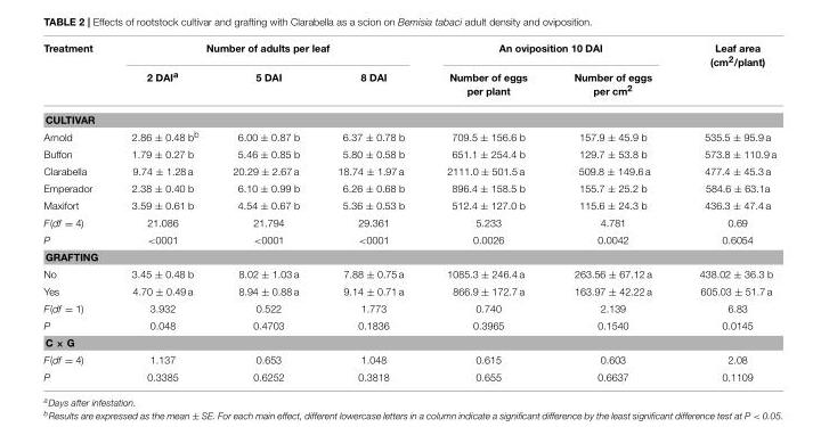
<table><thead><tr><td rowspan="2">Treatment</td><td colspan="3">Number of adults per leaf</td><td colspan="2">An oviposition 10 DAI</td><td rowspan="2">Leaf area (cm<sup>2</sup>/plant)</td></tr><tr><td>2 DAI<sup>a</sup></td><td>5 DAI</td><td>8 DAI</td><td>Number of eggs per plant</td><td>Number of eggs per cm<sup>2</sup></td></tr></thead><tbody><tr><td colspan="7">CULTIVAR</td></tr><tr><td>Arnold</td><td>2.86 ± 0.48 b<sup>b</sup></td><td>6.00 ± 0.87 b</td><td>6.37 ± 0.78 b</td><td>709.5 ± 156.6 b</td><td>157.9 ± 45.9 b</td><td>535.5 ± 95.9 a</td></tr><tr><td>Buffon</td><td>1.79 ± 0.27 b</td><td>5.46 ± 0.85 b</td><td>5.80 ± 0.58 b</td><td>651.1 ± 254.4 b</td><td>129.7 ± 53.8 b</td><td>573.8 ± 110.9 a</td></tr><tr><td>Clarabella</td><td>9.74 ± 1.28 a</td><td>20.29 ± 2.67 a</td><td>18.74 ± 1.97 a</td><td>2111.0 ± 501.5 a</td><td>509.8 ± 149.6 a</td><td>477.4 ± 45.3 a</td></tr><tr><td>Emperador</td><td>2.38 ± 0.40 b</td><td>6.10 ± 0.99 b</td><td>6.26 ± 0.68 b</td><td>896.4 ± 158.5 b</td><td>155.7 ± 25.2 b</td><td>584.6 ± 63.1a</td></tr><tr><td>Maxifort</td><td>3.59 ± 0.61 b</td><td>4.54 ± 0.67 b</td><td>5.36 ± 0.53 b</td><td>512.4 ± 127.0 b</td><td>115.6 ± 24.3 b</td><td>436.3 ± 47.4 a</td></tr><tr><td>F(df = 4)</td><td>21.086</td><td>21.794</td><td>29.361</td><td>5.233</td><td>4.781</td><td>0.69</td></tr><tr><td>P</td><td>&lt;0001</td><td>&lt;0001</td><td>&lt;0001</td><td>0.0026</td><td>0.0042</td><td>0.6054</td></tr><tr><td colspan="7">GRAFTING</td></tr><tr><td>No</td><td>3.45 ± 0.48 b</td><td>8.02 ± 1.03 a</td><td>7.88 ± 0.75 a</td><td>1085.3 ± 246.4 a</td><td>263.56 ± 67.12 a</td><td>438.02 ± 36.3 b</td></tr><tr><td>Yes</td><td>4.70 ± 0.49 a</td><td>8.94 ± 0.88 a</td><td>9.14 ± 0.71 a</td><td>866.9 ± 172.7 a</td><td>163.97 ± 42.22 a</td><td>605.03 ± 51.7 a</td></tr><tr><td>F(df = 1)</td><td>3.932</td><td>0.522</td><td>1.773</td><td>0.740</td><td>2.139</td><td>6.83</td></tr><tr><td>P</td><td>0.048</td><td>0.4703</td><td>0.1836</td><td>0.3965</td><td>0.1540</td><td>0.0145</td></tr><tr><td colspan="7">C × G</td></tr><tr><td>F(df = 4)</td><td>1.137</td><td>0.653</td><td>1.048</td><td>0.615</td><td>0.603</td><td>2.08</td></tr><tr><td>P</td><td>0.3385</td><td>0.6252</td><td>0.3818</td><td>0.655</td><td>0.6637</td><td>0.1109</td></tr></tbody></table>